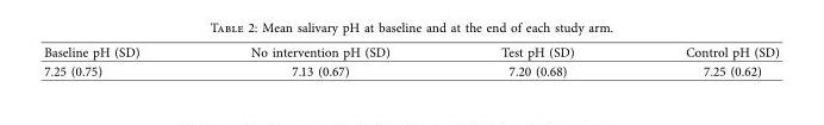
<table><thead><tr><td>Baseline pH (SD)</td><td>No intervention pH (SD)</td><td>Test pH (SD)</td><td>Control pH (SD)</td></tr></thead><tbody><tr><td>7.25 (0.75)</td><td>7.13 (0.67)</td><td>7.20 (0.68)</td><td>7.25 (0.62)</td></tr></tbody></table>